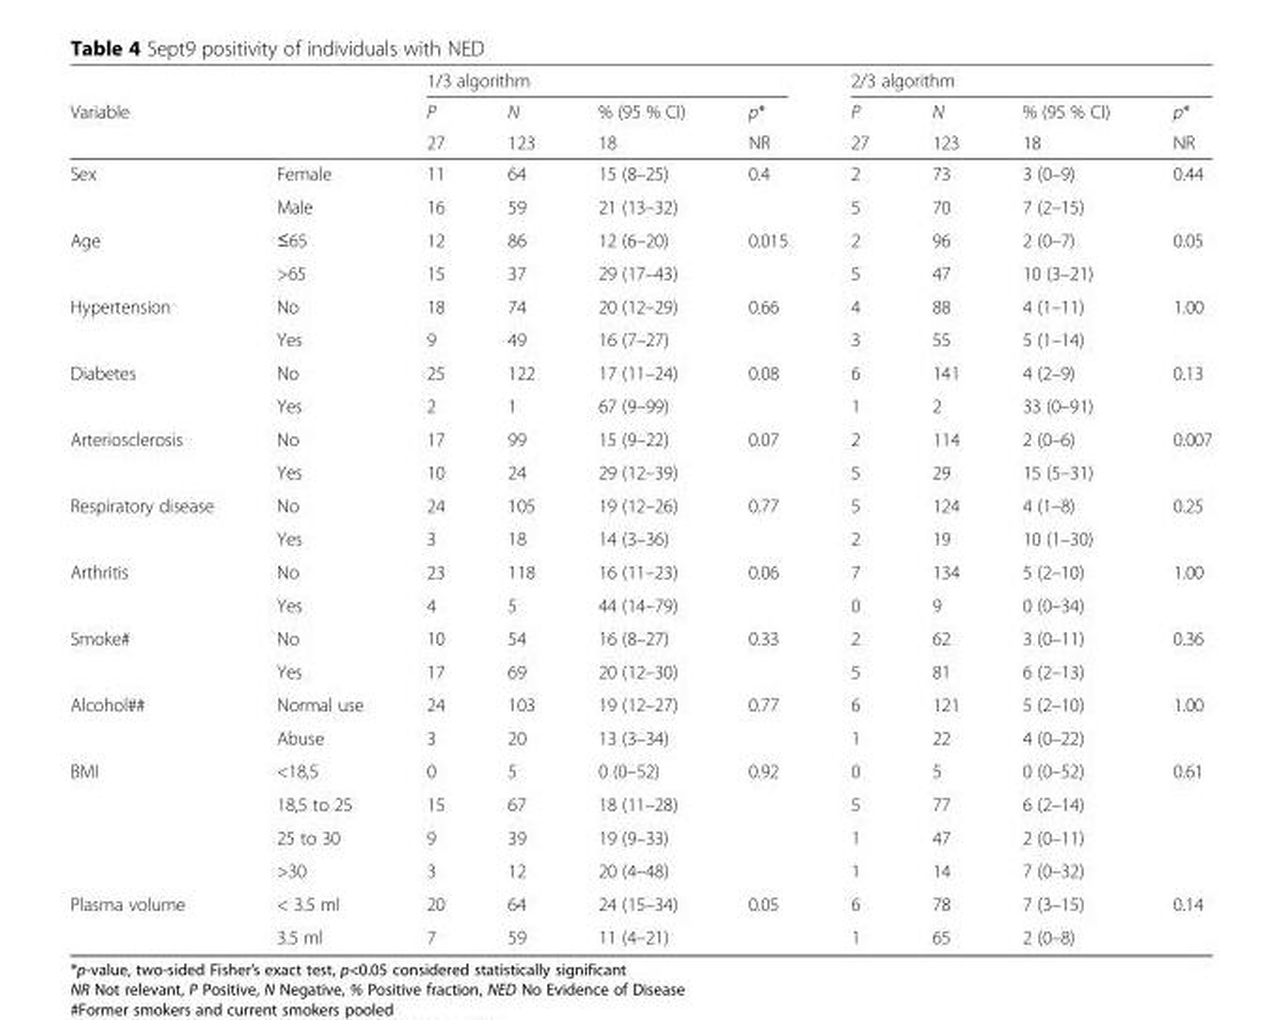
<table><thead><tr><td rowspan="3">Variable</td><td rowspan="3"></td><td colspan="4">1/3 algorithm</td><td colspan="4">2/3 algorithm</td></tr><tr><td rowspan="2">P 27</td><td rowspan="2">N 123</td><td rowspan="2">% (95 % CI) 18</td><td rowspan="2">p* NR</td><td rowspan="2">P 27</td><td rowspan="2">N 123</td><td rowspan="2">% (95 % CI) 18</td><td rowspan="2">p* NR</td></tr><tr></tr></thead><tbody><tr><td rowspan="2">Sex</td><td>Female</td><td>11</td><td>64</td><td>15 (8–25)</td><td>0.4</td><td>2</td><td>73</td><td>3 (0–9)</td><td>0.44</td></tr><tr><td>Male</td><td>16</td><td>59</td><td>21 (13–32)</td><td></td><td>5</td><td>70</td><td>7 (2–15)</td><td></td></tr><tr><td rowspan="2">Age</td><td>≤65</td><td>12</td><td>86</td><td>12 (6–20)</td><td>0.015</td><td>2</td><td>96</td><td>2 (0–7)</td><td>0.05</td></tr><tr><td>&gt;65</td><td>15</td><td>37</td><td>29 (17–43)</td><td></td><td>5</td><td>47</td><td>10 (3–21)</td><td></td></tr><tr><td rowspan="2">Hypertension</td><td>No</td><td>18</td><td>74</td><td>20 (12–29)</td><td>0.66</td><td>4</td><td>88</td><td>4 (1–11)</td><td>1.00</td></tr><tr><td>Yes</td><td>9</td><td>49</td><td>16 (7–27)</td><td></td><td>3</td><td>55</td><td>5 (1–14)</td><td></td></tr><tr><td rowspan="2">Diabetes</td><td>No</td><td>25</td><td>122</td><td>17 (11–24)</td><td>0.08</td><td>6</td><td>141</td><td>4 (2–9)</td><td>0.13</td></tr><tr><td>Yes</td><td>2</td><td>1</td><td>67 (9–99)</td><td></td><td>1</td><td>2</td><td>33 (0–91)</td><td></td></tr><tr><td rowspan="2">Arteriosclerosis</td><td>No</td><td>17</td><td>99</td><td>15 (9–22)</td><td>0.07</td><td>2</td><td>114</td><td>2 (0–6)</td><td>0.007</td></tr><tr><td>Yes</td><td>10</td><td>24</td><td>29 (12–39)</td><td></td><td>5</td><td>29</td><td>15 (5–31)</td><td></td></tr><tr><td rowspan="2">Respiratory disease</td><td>No</td><td>24</td><td>105</td><td>19 (12–26)</td><td>0.77</td><td>5</td><td>124</td><td>4 (1–8)</td><td>0.25</td></tr><tr><td>Yes</td><td>3</td><td>18</td><td>14 (3–36)</td><td></td><td>2</td><td>19</td><td>10 (1–30)</td><td></td></tr><tr><td rowspan="2">Arthritis</td><td>No</td><td>23</td><td>118</td><td>16 (11–23)</td><td>0.06</td><td>7</td><td>134</td><td>5 (2–10)</td><td>1.00</td></tr><tr><td>Yes</td><td>4</td><td>5</td><td>44 (14–79)</td><td></td><td>0</td><td>9</td><td>0 (0–34)</td><td></td></tr><tr><td rowspan="2">Smoke#</td><td>No</td><td>10</td><td>54</td><td>16 (8–27)</td><td>0.33</td><td>2</td><td>62</td><td>3 (0–11)</td><td>0.36</td></tr><tr><td>Yes</td><td>17</td><td>69</td><td>20 (12–30)</td><td></td><td>5</td><td>81</td><td>6 (2–13)</td><td></td></tr><tr><td rowspan="2">Alcohol##</td><td>Normal use</td><td>24</td><td>103</td><td>19 (12–27)</td><td>0.77</td><td>6</td><td>121</td><td>5 (2–10)</td><td>1.00</td></tr><tr><td>Abuse</td><td>3</td><td>20</td><td>13 (3–34)</td><td></td><td>1</td><td>22</td><td>4 (0–22)</td><td></td></tr><tr><td rowspan="4">BMI</td><td>&lt;18,5</td><td>0</td><td>5</td><td>0 (0–52)</td><td>0.92</td><td>0</td><td>5</td><td>0 (0–52)</td><td>0.61</td></tr><tr><td>18,5 to 25</td><td>15</td><td>67</td><td>18 (11–28)</td><td></td><td>5</td><td>77</td><td>6 (2–14)</td><td></td></tr><tr><td>25 to 30</td><td>9</td><td>39</td><td>19 (9–33)</td><td></td><td>1</td><td>47</td><td>2 (0–11)</td><td></td></tr><tr><td>&gt;30</td><td>3</td><td>12</td><td>20 (4–48)</td><td></td><td>1</td><td>14</td><td>7 (0–32)</td><td></td></tr><tr><td rowspan="2">Plasma volume</td><td>&lt; 3.5 ml</td><td>20</td><td>64</td><td>24 (15–34)</td><td>0.05</td><td>6</td><td>78</td><td>7 (3–15)</td><td>0.14</td></tr><tr><td>3.5 ml</td><td>7</td><td>59</td><td>11 (4–21)</td><td></td><td>1</td><td>65</td><td>2 (0–8)</td><td></td></tr></tbody></table>